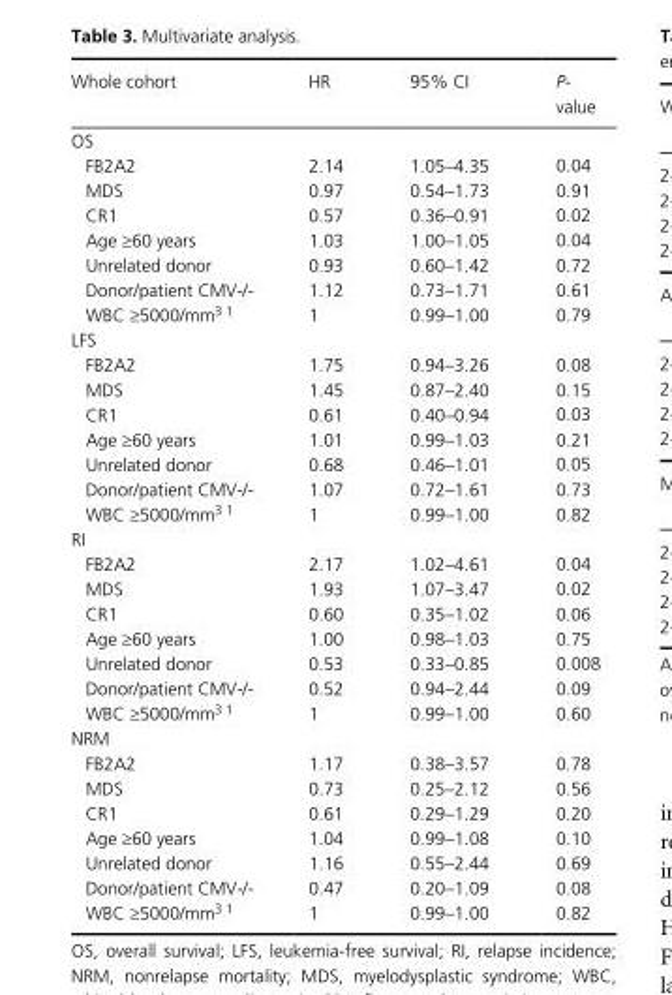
<table><thead><tr><td>Whole cohort</td><td>HR</td><td>95% CI</td><td>P- value</td></tr></thead><tbody><tr><td colspan="4">OS</td></tr><tr><td>FB2A2</td><td>2.14</td><td>1.05–4.35</td><td>0.04</td></tr><tr><td>MDS</td><td>0.97</td><td>0.54–1.73</td><td>0.91</td></tr><tr><td>CR1</td><td>0.57</td><td>0.36–0.91</td><td>0.02</td></tr><tr><td>Age ≥60 years</td><td>1.03</td><td>1.00–1.05</td><td>0.04</td></tr><tr><td>Unrelated donor</td><td>0.93</td><td>0.60–1.42</td><td>0.72</td></tr><tr><td>Donor/patient CMV- /-</td><td>1.12</td><td>0.73–1.71</td><td>0.61</td></tr><tr><td>WBC ≥5000/mm3 1</td><td>1</td><td>0.99–1.00</td><td>0.79</td></tr><tr><td colspan="4">LFS</td></tr><tr><td>FB2A2</td><td>1.75</td><td>0.94–3.26</td><td>0.08</td></tr><tr><td>MDS</td><td>1.45</td><td>0.87–2.40</td><td>0.15</td></tr><tr><td>CR1</td><td>0.61</td><td>0.40–0.94</td><td>0.03</td></tr><tr><td>Age ≥60 years</td><td>1.01</td><td>0.99–1.03</td><td>0.21</td></tr><tr><td>Unrelated donor</td><td>0.68</td><td>0.46–1.01</td><td>0.05</td></tr><tr><td>Donor/patient CMV- /-</td><td>1.07</td><td>0.72–1.61</td><td>0.73</td></tr><tr><td>WBC ≥5000/mm3 1</td><td>1</td><td>0.99–1.00</td><td>0.82</td></tr><tr><td colspan="4">RI</td></tr><tr><td>FB2A2</td><td>2.17</td><td>1.02–4.61</td><td>0.04</td></tr><tr><td>MDS</td><td>1.93</td><td>1.07–3.47</td><td>0.02</td></tr><tr><td>CR1</td><td>0.60</td><td>0.35–1.02</td><td>0.06</td></tr><tr><td>Age ≥60 years</td><td>1.00</td><td>0.98–1.03</td><td>0.75</td></tr><tr><td>Unrelated donor</td><td>0.53</td><td>0.33–0.85</td><td>0.008</td></tr><tr><td>Donor/patient CMV- /-</td><td>0.52</td><td>0.94–2.44</td><td>0.09</td></tr><tr><td>WBC ≥5000/mm3 1</td><td>1</td><td>0.99–1.00</td><td>0.60</td></tr><tr><td colspan="4">NRM</td></tr><tr><td>FB2A2</td><td>1.17</td><td>0.38–3.57</td><td>0.78</td></tr><tr><td>MDS</td><td>0.73</td><td>0.25–2.12</td><td>0.56</td></tr><tr><td>CR1</td><td>0.61</td><td>0.29–1.29</td><td>0.20</td></tr><tr><td>Age ≥60 years</td><td>1.04</td><td>0.99–1.08</td><td>0.10</td></tr><tr><td>Unrelated donor</td><td>1.16</td><td>0.55–2.44</td><td>0.69</td></tr><tr><td>Donor/patient CMV- /-</td><td>0.47</td><td>0.20–1.09</td><td>0.08</td></tr><tr><td>WBC ≥5000/mm3 1</td><td>1</td><td>0.99–1.00</td><td>0.82</td></tr></tbody></table>